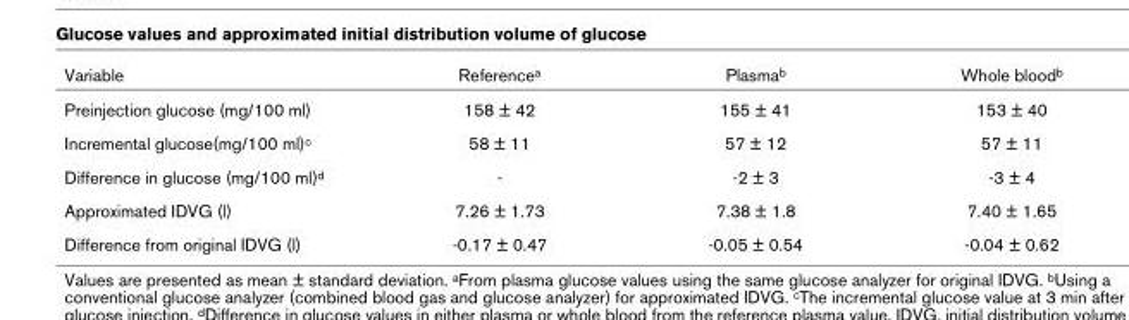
<table><thead><tr><td>Variable</td><td>Referencea</td><td>Plasmab</td><td>Whole bloodb</td></tr></thead><tbody><tr><td>Preinjection glucose (mg/100 ml)</td><td>158 ± 42</td><td>155 ± 41</td><td>153 ± 40</td></tr><tr><td>Incremental glucose(mg/100 ml)c</td><td>58 ± 11</td><td>57 ± 12</td><td>57 ± 11</td></tr><tr><td>Difference in glucose (mg/100 ml)d</td><td>-</td><td>-2 ± 3</td><td>-3 ± 4</td></tr><tr><td>Approximated IDVG (l)</td><td>7.26 ± 1.73</td><td>7.38 ± 1.8</td><td>7.40 ± 1.65</td></tr><tr><td>Difference from original IDVG (l)</td><td>-0.17 ± 0.47</td><td>-0.05 ± 0.54</td><td>-0.04 ± 0.62</td></tr></tbody></table>